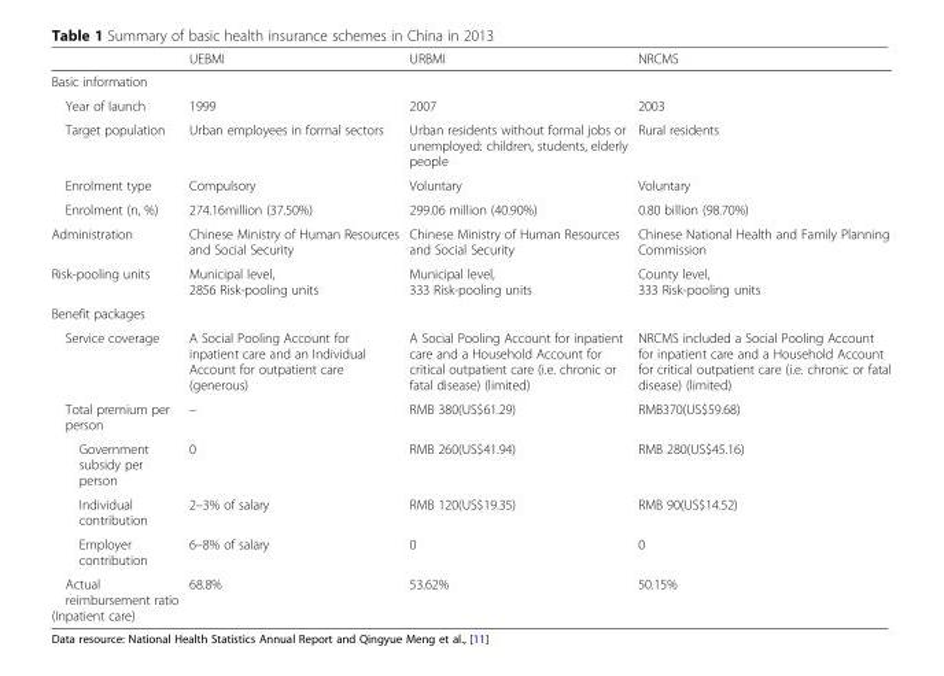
<table><thead><tr><td></td><td>UEBMI</td><td>URBMI</td><td>NRCMS</td></tr></thead><tbody><tr><td colspan="4">Basic information</td></tr><tr><td>Year of launch</td><td>1999</td><td>2007</td><td>2003</td></tr><tr><td>Target population</td><td>Urban employees in formal sectors</td><td>Urban residents without formal jobs or unemployed: children, students, elderly people</td><td>Rural residents</td></tr><tr><td>Enrolment type</td><td>Compulsory</td><td>Voluntary</td><td>Voluntary</td></tr><tr><td>Enrolment (n, %)</td><td>274.16million (37.50%)</td><td>299.06 million (40.90%)</td><td>0.80 billion (98.70%)</td></tr><tr><td>Administration</td><td>Chinese Ministry of Human Resources and Social Security</td><td>Chinese Ministry of Human Resources and Social Security</td><td>Chinese National Health and Family Planning Commission</td></tr><tr><td>Risk-pooling units</td><td>Municipal level, 2856 Risk-pooling units</td><td>Municipal level, 333 Risk-pooling units</td><td>County level, 333 Risk-pooling units</td></tr><tr><td colspan="4">Benefit packages</td></tr><tr><td>Service coverage</td><td>A Social Pooling Account for inpatient care and an Individual Account for outpatient care (generous)</td><td>A Social Pooling Account for inpatient care and a Household Account for critical outpatient care (i.e. chronic or fatal disease) (limited)</td><td>NRCMS included a Social Pooling Account for inpatient care and a Household Account for critical outpatient care (i.e. chronic or fatal disease) (limited)</td></tr><tr><td>Total premium per person</td><td>–</td><td>RMB 380(US$61.29)</td><td>RMB370(US$59.68)</td></tr><tr><td>Government subsidy per person</td><td>0</td><td>RMB 260(US$41.94)</td><td>RMB 280(US$45.16)</td></tr><tr><td>Individual contribution</td><td>2–3% of salary</td><td>RMB 120(US$19.35)</td><td>RMB 90(US$14.52)</td></tr><tr><td>Employer contribution</td><td>6–8% of salary</td><td>0</td><td>0</td></tr><tr><td>Actual reimbursement ratio (Inpatient care)</td><td>68.8%</td><td>53.62%</td><td>50.15%</td></tr></tbody></table>